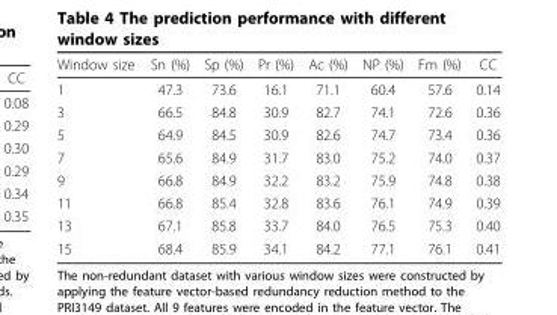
<table><thead><tr><td>Window size</td><td>Sn (%)</td><td>Sp (%)</td><td>Pr (%)</td><td>Ac (%)</td><td>NP (%)</td><td>Fm (%)</td><td>CC</td></tr></thead><tbody><tr><td>1</td><td>47.3</td><td>73.6</td><td>16.1</td><td>71.1</td><td>60.4</td><td>57.6</td><td>0.14</td></tr><tr><td>3</td><td>66.5</td><td>84.8</td><td>30.9</td><td>82.7</td><td>74.1</td><td>72.6</td><td>0.36</td></tr><tr><td>5</td><td>64.9</td><td>84.5</td><td>30.9</td><td>82.6</td><td>74.7</td><td>73.4</td><td>0.36</td></tr><tr><td>7</td><td>65.6</td><td>84.9</td><td>31.7</td><td>83.0</td><td>75.2</td><td>74.0</td><td>0.37</td></tr><tr><td>9</td><td>66.8</td><td>84.9</td><td>32.2</td><td>83.2</td><td>75.9</td><td>74.8</td><td>0.38</td></tr><tr><td>11</td><td>66.8</td><td>85.4</td><td>32.8</td><td>83.6</td><td>76.1</td><td>74.9</td><td>0.39</td></tr><tr><td>13</td><td>67.1</td><td>85.8</td><td>33.7</td><td>84.0</td><td>76.5</td><td>75.3</td><td>0.40</td></tr><tr><td>15</td><td>68.4</td><td>85.9</td><td>34.1</td><td>84.2</td><td>77.1</td><td>76.1</td><td>0.41</td></tr></tbody></table>